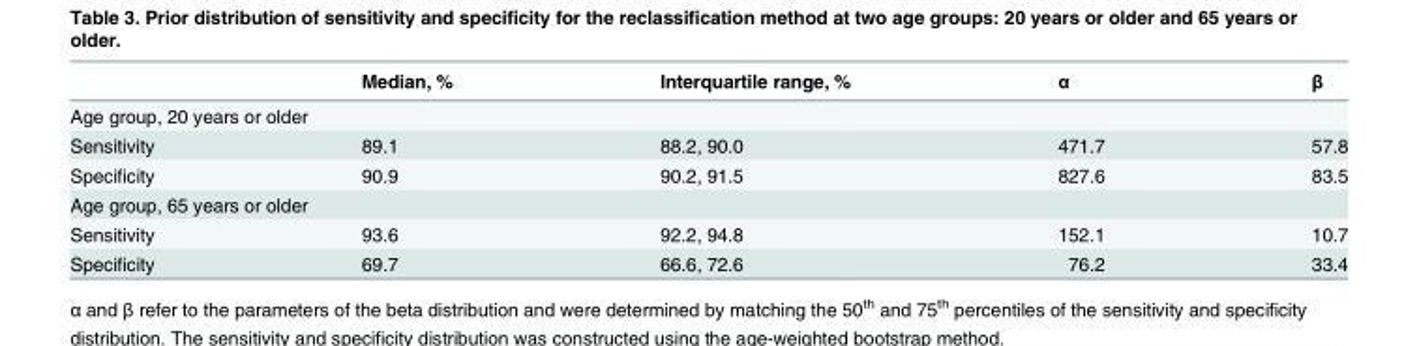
<table><thead><tr><td></td><td>Median, %</td><td>Interquartile range, %</td><td>α</td><td>β</td></tr></thead><tbody><tr><td colspan="5">Age group, 20 years or older</td></tr><tr><td>Sensitivity</td><td>89.1</td><td>88.2, 90.0</td><td>471.7</td><td>57.8</td></tr><tr><td>Specificity</td><td>90.9</td><td>90.2, 91.5</td><td>827.6</td><td>83.5</td></tr><tr><td colspan="5">Age group, 65 years or older</td></tr><tr><td>Sensitivity</td><td>93.6</td><td>92.2, 94.8</td><td>152.1</td><td>10.7</td></tr><tr><td>Specificity</td><td>69.7</td><td>66.6, 72.6</td><td>76.2</td><td>33.4</td></tr></tbody></table>